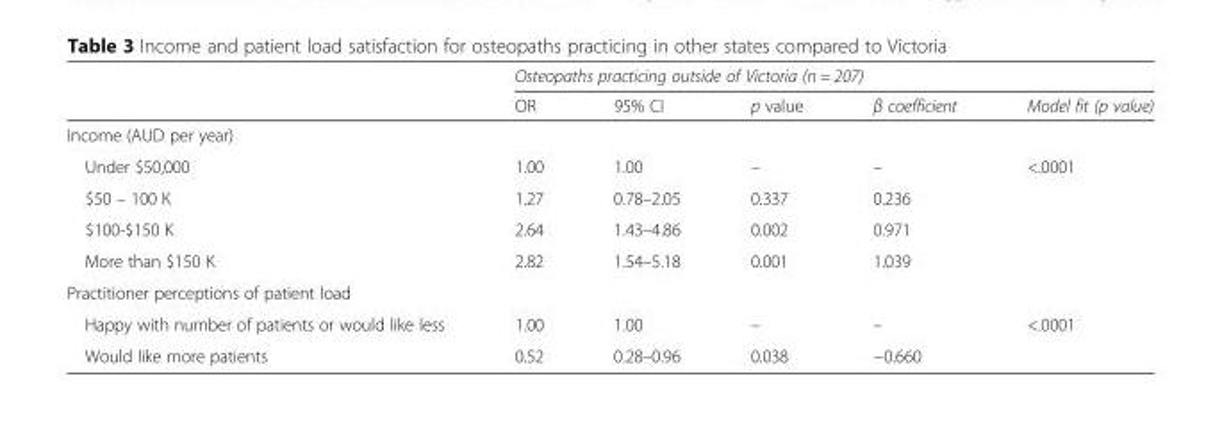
<table><thead><tr><td rowspan="2"></td><td colspan="5">Osteopaths practicing outside of Victoria (n = 207)</td></tr><tr><td>OR</td><td>95% CI</td><td>p value</td><td>β coefficient</td><td>Model fit (p value)</td></tr></thead><tbody><tr><td colspan="6">Income (AUD per year)</td></tr><tr><td>Under $50,000</td><td>1.00</td><td>1.00</td><td>–</td><td>–</td><td rowspan="4">&lt;.0001</td></tr><tr><td>$50 – 100 K</td><td>1.27</td><td>0.78–2.05</td><td>0.337</td><td>0.236</td></tr><tr><td>$100-$150 K</td><td>2.64</td><td>1.43–4.86</td><td>0.002</td><td>0.971</td></tr><tr><td>More than $150 K</td><td>2.82</td><td>1.54–5.18</td><td>0.001</td><td>1.039</td></tr><tr><td colspan="6">Practitioner perceptions of patient load</td></tr><tr><td>Happy with number of patients or would like less</td><td>1.00</td><td>1.00</td><td>–</td><td>–</td><td rowspan="2">&lt;.0001</td></tr><tr><td>Would like more patients</td><td>0.52</td><td>0.28–0.96</td><td>0.038</td><td>−0.660</td></tr></tbody></table>